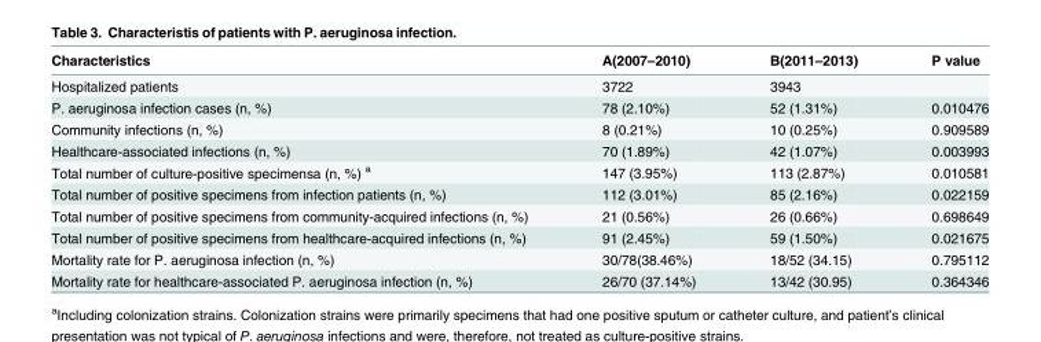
<table><thead><tr><td>Characteristics</td><td>A(2007–2010)</td><td>B(2011–2013)</td><td>P value</td></tr></thead><tbody><tr><td>Hospitalized patients</td><td>3722</td><td>3943</td><td></td></tr><tr><td>P. aeruginosa infection cases (n, %)</td><td>78 (2.10%)</td><td>52 (1.31%)</td><td>0.010476</td></tr><tr><td>Community infections (n, %)</td><td>8 (0.21%)</td><td>10 (0.25%)</td><td>0.909589</td></tr><tr><td>Healthcare-associated infections (n, %)</td><td>70 (1.89%)</td><td>42 (1.07%)</td><td>0.003993</td></tr><tr><td>Total number of culture-positive specimensa (n, %) <sup>a</sup></td><td>147 (3.95%)</td><td>113 (2.87%)</td><td>0.010581</td></tr><tr><td>Total number of positive specimens from infection patients (n, %)</td><td>112 (3.01%)</td><td>85 (2.16%)</td><td>0.022159</td></tr><tr><td>Total number of positive specimens from community-acquired infections (n, %)</td><td>21 (0.56%)</td><td>26 (0.66%)</td><td>0.698649</td></tr><tr><td>Total number of positive specimens from healthcare-acquired infections (n, %)</td><td>91 (2.45%)</td><td>59 (1.50%)</td><td>0.021675</td></tr><tr><td>Mortality rate for P. aeruginosa infection (n, %)</td><td>30/78(38.46%)</td><td>18/52 (34.15)</td><td>0.795112</td></tr><tr><td>Mortality rate for healthcare-associated P. aeruginosa infection (n, %)</td><td>26/70 (37.14%)</td><td>13/42 (30.95)</td><td>0.364346</td></tr></tbody></table>